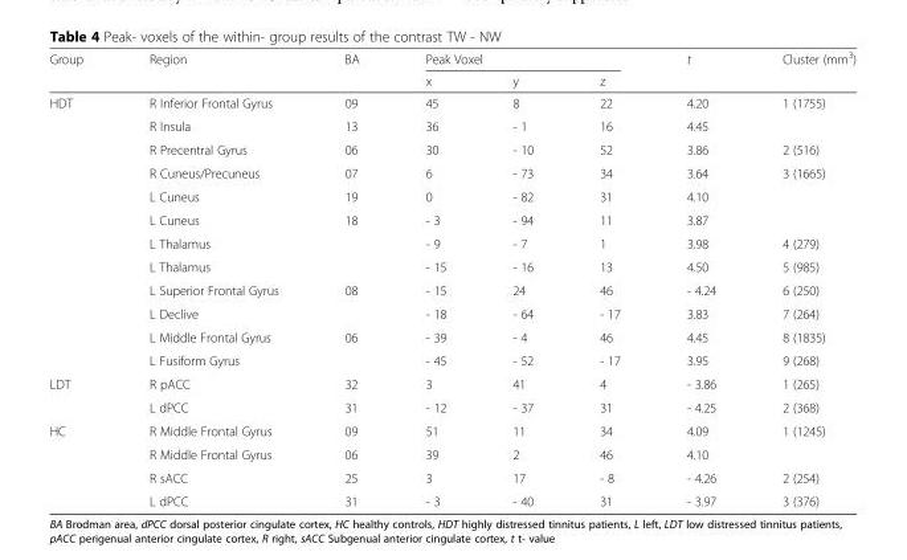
<table><thead><tr><td rowspan="2">Group</td><td rowspan="2">Region</td><td rowspan="2">BA</td><td colspan="3">Peak Voxel</td><td rowspan="2">t</td><td rowspan="2">Cluster (mm<sup>3</sup>)</td></tr><tr><td>x</td><td>y</td><td>z</td></tr></thead><tbody><tr><td rowspan="12">HDT</td><td>R Inferior Frontal Gyrus</td><td>09</td><td>45</td><td>8</td><td>22</td><td>4.20</td><td>1 (1755)</td></tr><tr><td>R Insula</td><td>13</td><td>36</td><td>- 1</td><td>16</td><td>4.45</td><td></td></tr><tr><td>R Precentral Gyrus</td><td>06</td><td>30</td><td>- 10</td><td>52</td><td>3.86</td><td>2 (516)</td></tr><tr><td>R Cuneus/Precuneus</td><td>07</td><td>6</td><td>- 73</td><td>34</td><td>3.64</td><td>3 (1665)</td></tr><tr><td>L Cuneus</td><td>19</td><td>0</td><td>- 82</td><td>31</td><td>4.10</td><td></td></tr><tr><td>L Cuneus</td><td>18</td><td>- 3</td><td>- 94</td><td>11</td><td>3.87</td><td></td></tr><tr><td>L Thalamus</td><td></td><td>- 9</td><td>- 7</td><td>1</td><td>3.98</td><td>4 (279)</td></tr><tr><td>L Thalamus</td><td></td><td>- 15</td><td>- 16</td><td>13</td><td>4.50</td><td>5 (985)</td></tr><tr><td>L Superior Frontal Gyrus</td><td>08</td><td>- 15</td><td>24</td><td>46</td><td>- 4.24</td><td>6 (250)</td></tr><tr><td>L Declive</td><td></td><td>- 18</td><td>- 64</td><td>- 17</td><td>3.83</td><td>7 (264)</td></tr><tr><td>L Middle Frontal Gyrus</td><td>06</td><td>- 39</td><td>- 4</td><td>46</td><td>4.45</td><td>8 (1835)</td></tr><tr><td>L Fusiform Gyrus</td><td></td><td>- 45</td><td>- 52</td><td>- 17</td><td>3.95</td><td>9 (268)</td></tr><tr><td rowspan="2">LDT</td><td>R pACC</td><td>32</td><td>3</td><td>41</td><td>4</td><td>- 3.86</td><td>1 (265)</td></tr><tr><td>L dPCC</td><td>31</td><td>- 12</td><td>- 37</td><td>31</td><td>- 4.25</td><td>2 (368)</td></tr><tr><td rowspan="4">HC</td><td>R Middle Frontal Gyrus</td><td>09</td><td>51</td><td>11</td><td>34</td><td>4.09</td><td>1 (1245)</td></tr><tr><td>R Middle Frontal Gyrus</td><td>06</td><td>39</td><td>2</td><td>46</td><td>4.10</td><td></td></tr><tr><td>R sACC</td><td>25</td><td>3</td><td>17</td><td>- 8</td><td>- 4.26</td><td>2 (254)</td></tr><tr><td>L dPCC</td><td>31</td><td>- 3</td><td>- 40</td><td>31</td><td>- 3.97</td><td>3 (376)</td></tr></tbody></table>